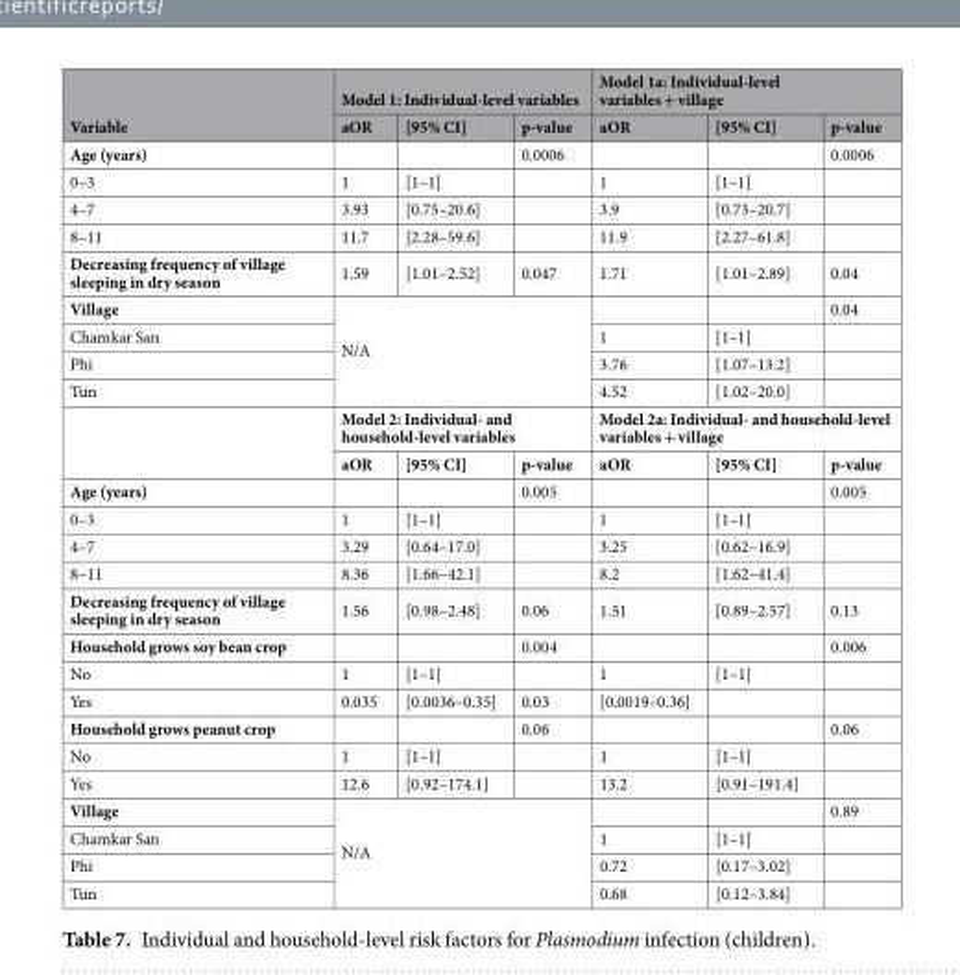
<table><thead><tr><td rowspan="2">Variable</td><td colspan="3">Model 1: Individual-level variables</td><td colspan="3">Model 1a: Individual-level variables + village</td></tr><tr><td>aOR</td><td>[95% CI]</td><td>p-value</td><td>aOR</td><td>[95% CI]</td><td>p-value</td></tr></thead><tbody><tr><td>Age (years)</td><td></td><td></td><td>0.0006</td><td></td><td></td><td>0.0006</td></tr><tr><td>0–3</td><td>1</td><td>[1–1]</td><td></td><td>1</td><td>[1–1]</td><td></td></tr><tr><td>4–7</td><td>3.93</td><td>[0.75–20.6]</td><td></td><td>3.9</td><td>[0.73–20.7]</td><td></td></tr><tr><td>8–11</td><td>11.7</td><td>[2.28–59.6]</td><td></td><td>11.9</td><td>[2.27–61.8]</td><td></td></tr><tr><td>Decreasing frequency of village sleeping in dry season</td><td>1.59</td><td>[1.01–2.52]</td><td>0.047</td><td>1.71</td><td>[1.01–2.89]</td><td>0.04</td></tr><tr><td>Village</td><td rowspan="4" colspan="3">N/A</td><td></td><td></td><td>0.04</td></tr><tr><td>Chamkar San</td><td>1</td><td>[1–1]</td><td></td></tr><tr><td>Phi</td><td>3.76</td><td>[1.07–13.2]</td><td></td></tr><tr><td rowspan="3">Tun</td><td>4.52</td><td>[1.02–20.0]</td><td></td></tr><tr><td colspan="3">Model 2: Individual- and household-level variables</td><td colspan="3">Model 2a: Individual- and household-level variables + village</td></tr><tr><td>aOR</td><td>[95% CI]</td><td>p-value</td><td>aOR</td><td>[95% CI]</td><td>p-value</td></tr><tr><td>Age (years)</td><td></td><td></td><td>0.005</td><td></td><td></td><td>0.005</td></tr><tr><td>0–3</td><td>1</td><td>[1–1]</td><td></td><td>1</td><td>[1–1]</td><td></td></tr><tr><td>4–7</td><td>3.29</td><td>[0.64–17.0]</td><td></td><td>3.25</td><td>[0.62–16.9]</td><td></td></tr><tr><td>8–11</td><td>8.36</td><td>[1.66–42.1]</td><td></td><td>8.2</td><td>[1.62–41.4]</td><td></td></tr><tr><td>Decreasing frequency of village sleeping in dry season</td><td>1.56</td><td>[0.98–2.48]</td><td>0.06</td><td>1.51</td><td>[0.89–2.57]</td><td>0.13</td></tr><tr><td>Household grows soy bean crop</td><td></td><td></td><td>0.004</td><td></td><td></td><td>0.006</td></tr><tr><td>No</td><td>1</td><td>[1–1]</td><td></td><td>1</td><td>[1–1]</td><td></td></tr><tr><td>Yes</td><td>0.035</td><td>[0.0036–0.35]</td><td>0.03</td><td>[0.0019–0.36]</td><td></td><td></td></tr><tr><td>Household grows peanut crop</td><td></td><td></td><td>0.06</td><td></td><td></td><td>0.06</td></tr><tr><td>No</td><td>1</td><td>[1–1]</td><td></td><td>1</td><td>[1–1]</td><td></td></tr><tr><td>Yes</td><td>12.6</td><td>[0.92–174.1]</td><td></td><td>13.2</td><td>[0.91–191.4]</td><td></td></tr><tr><td>Village</td><td rowspan="4" colspan="3">N/A</td><td></td><td></td><td>0.89</td></tr><tr><td>Chamkar San</td><td>1</td><td>[1–1]</td><td></td></tr><tr><td>Phi</td><td>0.72</td><td>[0.17–3.02]</td><td></td></tr><tr><td>Tun</td><td>0.68</td><td>[0.12–3.84]</td><td></td></tr></tbody></table>